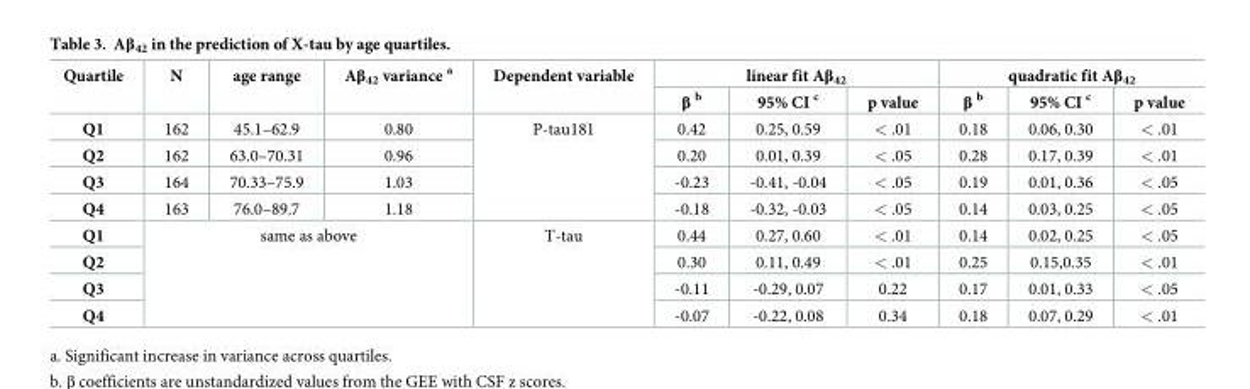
<table><thead><tr><td rowspan="2">Quartile</td><td rowspan="2">N</td><td rowspan="2">age range</td><td rowspan="2">Aβ<sub>42</sub> variance <sup>a</sup></td><td rowspan="2">Dependent variable</td><td colspan="3">linear fit Aβ<sub>42</sub></td><td colspan="3">quadratic fit Aβ<sub>42</sub></td></tr><tr><td>β <sup>b</sup></td><td>95% CI <sup>c</sup></td><td>p value</td><td>β <sup>b</sup></td><td>95% CI <sup>c</sup></td><td>p value</td></tr></thead><tbody><tr><td>Q1</td><td>162</td><td>45.1–62.9</td><td>0.80</td><td rowspan="4">P-tau181</td><td>0.42</td><td>0.25, 0.59</td><td>&lt; .01</td><td>0.18</td><td>0.06, 0.30</td><td>&lt; .01</td></tr><tr><td>Q2</td><td>162</td><td>63.0–70.31</td><td>0.96</td><td>0.20</td><td>0.01, 0.39</td><td>&lt; .05</td><td>0.28</td><td>0.17, 0.39</td><td>&lt; .01</td></tr><tr><td>Q3</td><td>164</td><td>70.33–75.9</td><td>1.03</td><td>-0.23</td><td>-0.41, -0.04</td><td>&lt; .05</td><td>0.19</td><td>0.01, 0.36</td><td>&lt; .05</td></tr><tr><td>Q4</td><td>163</td><td>76.0–89.7</td><td>1.18</td><td>-0.18</td><td>-0.32, -0.03</td><td>&lt; .05</td><td>0.14</td><td>0.03, 0.25</td><td>&lt; .05</td></tr><tr><td>Q1</td><td rowspan="4" colspan="3">same as above</td><td rowspan="4">T-tau</td><td>0.44</td><td>0.27, 0.60</td><td>&lt; .01</td><td>0.14</td><td>0.02, 0.25</td><td>&lt; .05</td></tr><tr><td>Q2</td><td>0.30</td><td>0.11, 0.49</td><td>&lt; .01</td><td>0.25</td><td>0.15,0.35</td><td>&lt; .01</td></tr><tr><td>Q3</td><td>-0.11</td><td>-0.29, 0.07</td><td>0.22</td><td>0.17</td><td>0.01, 0.33</td><td>&lt; .05</td></tr><tr><td>Q4</td><td>-0.07</td><td>-0.22, 0.08</td><td>0.34</td><td>0.18</td><td>0.07, 0.29</td><td>&lt; .01</td></tr></tbody></table>